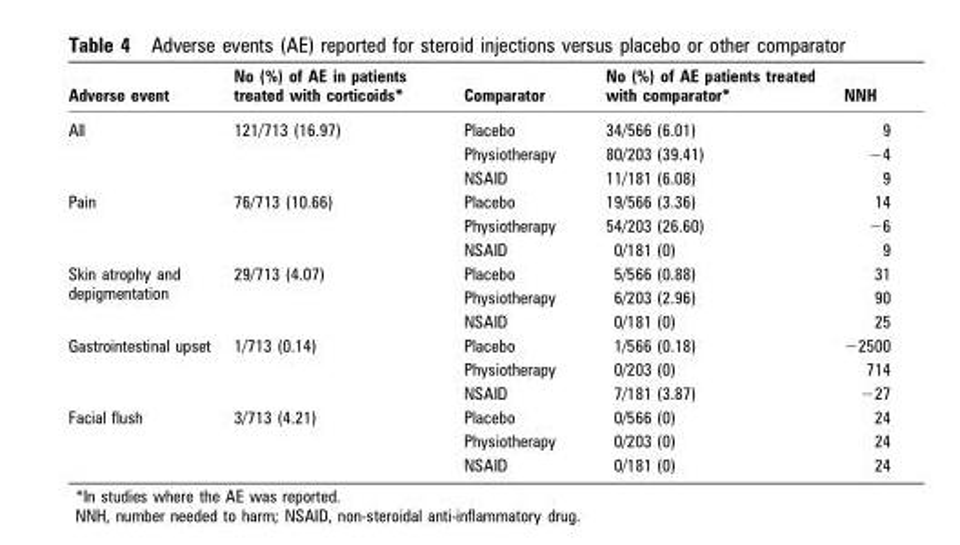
<table><thead><tr><td>Adverse event</td><td>No (%) of AE in patients treated with corticoids*</td><td>Comparator</td><td>No (%) of AE patients treated with comparator*</td><td>NNH</td></tr></thead><tbody><tr><td rowspan="3">All</td><td rowspan="3">121/713 (16.97)</td><td>Placebo</td><td>34/566 (6.01)</td><td>9</td></tr><tr><td>Physiotherapy</td><td>80/203 (39.41)</td><td>−4</td></tr><tr><td>NSAID</td><td>11/181 (6.08)</td><td>9</td></tr><tr><td rowspan="3">Pain</td><td rowspan="3">76/713 (10.66)</td><td>Placebo</td><td>19/566 (3.36)</td><td>14</td></tr><tr><td>Physiotherapy</td><td>54/203 (26.60)</td><td>−6</td></tr><tr><td>NSAID</td><td>0/181 (0)</td><td>9</td></tr><tr><td rowspan="3">Skin atrophy and depigmentation</td><td rowspan="3">29/713 (4.07)</td><td>Placebo</td><td>5/566 (0.88)</td><td>31</td></tr><tr><td>Physiotherapy</td><td>6/203 (2.96)</td><td>90</td></tr><tr><td>NSAID</td><td>0/181 (0)</td><td>25</td></tr><tr><td rowspan="3">Gastrointestinal upset</td><td rowspan="3">1/713 (0.14)</td><td>Placebo</td><td>1/566 (0.18)</td><td>−2500</td></tr><tr><td>Physiotherapy</td><td>0/203 (0)</td><td>714</td></tr><tr><td>NSAID</td><td>7/181 (3.87)</td><td>−27</td></tr><tr><td rowspan="3">Facial flush</td><td rowspan="3">3/713 (4.21)</td><td>Placebo</td><td>0/566 (0)</td><td>24</td></tr><tr><td>Physiotherapy</td><td>0/203 (0)</td><td>24</td></tr><tr><td>NSAID</td><td>0/181 (0)</td><td>24</td></tr></tbody></table>